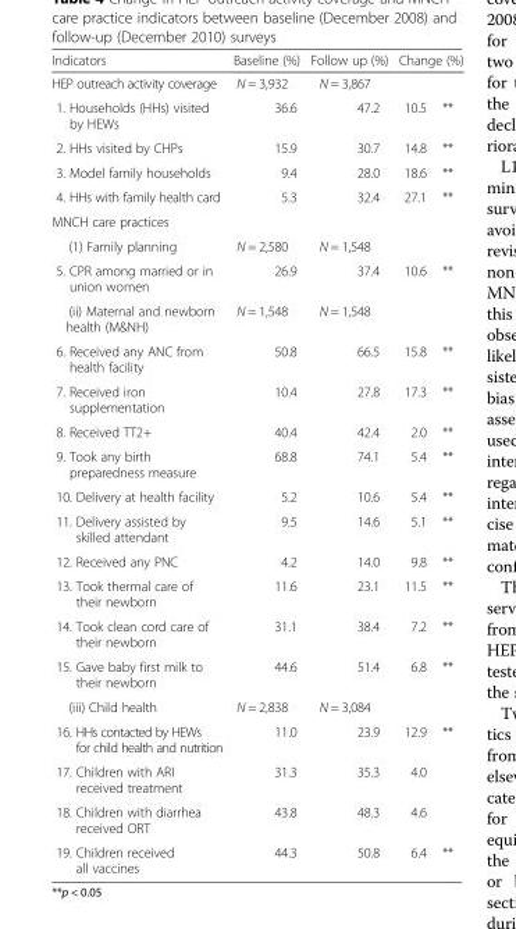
<table><thead><tr><td rowspan="2">Indicators HEP outreach activity coverage</td><td rowspan="2">Baseline (%) N = 3,932</td><td rowspan="2">Follow up (%) N = 3,867</td><td colspan="2">Change (%)</td></tr><tr><td></td><td></td></tr></thead><tbody><tr><td>1. Households (HHs) visited by HEWs</td><td>36.6</td><td>47.2</td><td>10.5</td><td>**</td></tr><tr><td>2. HHs visited by CHPs</td><td>15.9</td><td>30.7</td><td>14.8</td><td>**</td></tr><tr><td>3. Model family households</td><td>9.4</td><td>28.0</td><td>18.6</td><td>**</td></tr><tr><td>4. HHs with family health card</td><td>5.3</td><td>32.4</td><td>27.1</td><td>**</td></tr><tr><td colspan="5">MNCH care practices</td></tr><tr><td>(1) Family planning</td><td>N = 2,580</td><td>N = 1,548</td><td></td><td></td></tr><tr><td>5. CPR among married or in union women</td><td>26.9</td><td>37.4</td><td>10.6</td><td>**</td></tr><tr><td>(ii) Maternal and newborn health (M&amp;NH)</td><td>N = 1,548</td><td>N = 1,548</td><td></td><td></td></tr><tr><td>6. Received any ANC from health facility</td><td>50.8</td><td>66.5</td><td>15.8</td><td>**</td></tr><tr><td>7. Received iron supplementation</td><td>10.4</td><td>27.8</td><td>17.3</td><td>**</td></tr><tr><td>8. Received TT2+</td><td>40.4</td><td>42.4</td><td>2.0</td><td>**</td></tr><tr><td>9. Took any birth preparedness measure</td><td>68.8</td><td>74.1</td><td>5.4</td><td>**</td></tr><tr><td>10. Delivery at health facility</td><td>5.2</td><td>10.6</td><td>5.4</td><td>**</td></tr><tr><td>11. Delivery assisted by skilled attendant</td><td>9.5</td><td>14.6</td><td>5.1</td><td>**</td></tr><tr><td>12. Received any PNC</td><td>4.2</td><td>14.0</td><td>9.8</td><td>**</td></tr><tr><td>13. Took thermal care of their newborn</td><td>11.6</td><td>23.1</td><td>11.5</td><td>**</td></tr><tr><td>14. Took clean cord care of their newborn</td><td>31.1</td><td>38.4</td><td>7.2</td><td>**</td></tr><tr><td>15. Gave baby first milk to their newborn</td><td>44.6</td><td>51.4</td><td>6.8</td><td>**</td></tr><tr><td>(iii) Child health</td><td>N = 2,838</td><td>N = 3,084</td><td></td><td></td></tr><tr><td>16. HHs contacted by HEWs for child health and nutrition</td><td>11.0</td><td>23.9</td><td>12.9</td><td>**</td></tr><tr><td>17. Children with ARI received treatment</td><td>31.3</td><td>35.3</td><td>4.0</td><td></td></tr><tr><td>18. Children with diarrhea received ORT</td><td>43.8</td><td>48.3</td><td>4.6</td><td></td></tr><tr><td>19. Children received all vaccines</td><td>44.3</td><td>50.8</td><td>6.4</td><td>**</td></tr></tbody></table>